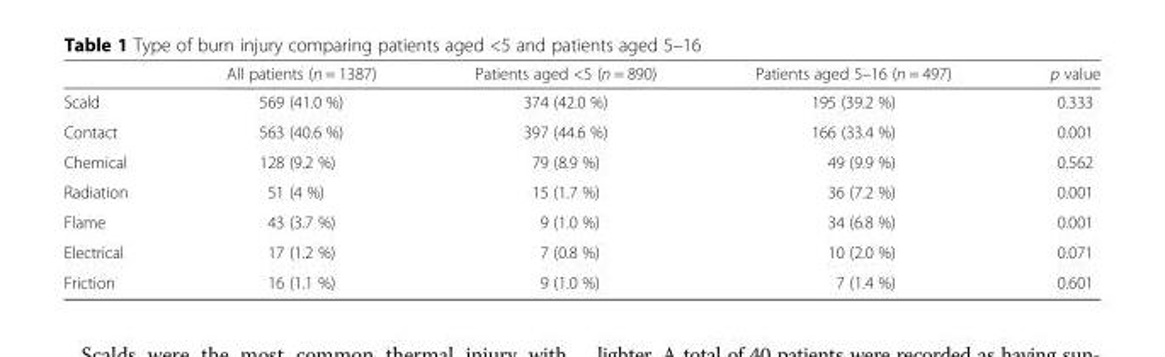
<table><thead><tr><td></td><td>All patients (n = 1387)</td><td>Patients aged &lt;5 (n = 890)</td><td>Patients aged 5–16 (n = 497)</td><td>p value</td></tr></thead><tbody><tr><td>Scald</td><td>569 (41.0 %)</td><td>374 (42.0 %)</td><td>195 (39.2 %)</td><td>0.333</td></tr><tr><td>Contact</td><td>563 (40.6 %)</td><td>397 (44.6 %)</td><td>166 (33.4 %)</td><td>0.001</td></tr><tr><td>Chemical</td><td>128 (9.2 %)</td><td>79 (8.9 %)</td><td>49 (9.9 %)</td><td>0.562</td></tr><tr><td>Radiation</td><td>51 (4 %)</td><td>15 (1.7 %)</td><td>36 (7.2 %)</td><td>0.001</td></tr><tr><td>Flame</td><td>43 (3.7 %)</td><td>9 (1.0 %)</td><td>34 (6.8 %)</td><td>0.001</td></tr><tr><td>Electrical</td><td>17 (1.2 %)</td><td>7 (0.8 %)</td><td>10 (2.0 %)</td><td>0.071</td></tr><tr><td>Friction</td><td>16 (1.1 %)</td><td>9 (1.0 %)</td><td>7 (1.4 %)</td><td>0.601</td></tr></tbody></table>